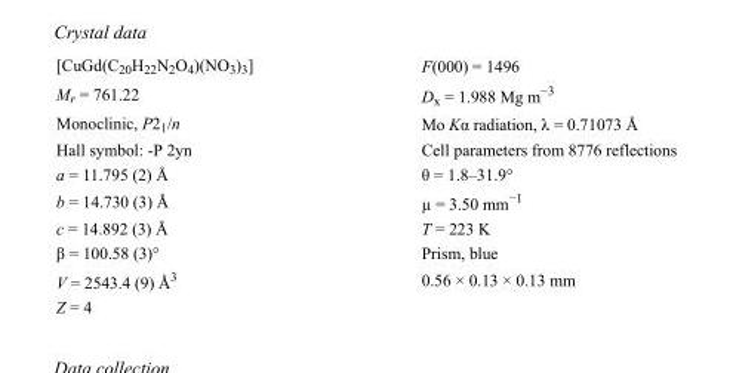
<table><tbody><tr><td>[CuGd(C<sub>20</sub>H<sub>22</sub>N<sub>2</sub>O<sub>4</sub>)(NO<sub>3</sub>)<sub>3</sub>]</td><td>F(000) = 1496</td></tr><tr><td>M<sub>r</sub> = 761.22</td><td>D<sub>x</sub> = 1.988 Mg m<sup>−3</sup></td></tr><tr><td>Monoclinic, P2<sub>1</sub>/n</td><td>Mo Kα radiation, λ = 0.71073 Å</td></tr><tr><td>Hall symbol: -P 2yn</td><td>Cell parameters from 8776 reflections</td></tr><tr><td>a = 11.795 (2) Å</td><td>θ = 1.8–31.9°</td></tr><tr><td>b = 14.730 (3) Å</td><td>µ = 3.50 mm<sup>−1</sup></td></tr><tr><td>c = 14.892 (3) Å</td><td>T = 223 K</td></tr><tr><td>β = 100.58 (3)°</td><td>Prism, blue</td></tr><tr><td>V = 2543.4 (9) Å<sup>3</sup></td><td>0.56 × 0.13 × 0.13 mm</td></tr><tr><td>Z = 4</td><td></td></tr></tbody></table>